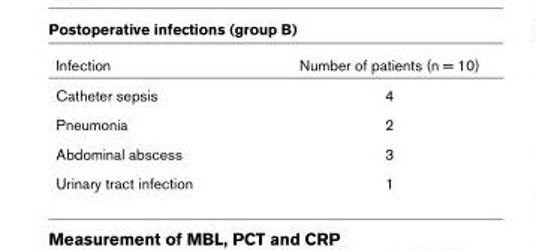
<table><thead><tr><td>Infection</td><td>Number of patients (n = 10)</td></tr></thead><tbody><tr><td>Catheter sepsis</td><td>4</td></tr><tr><td>Pneumonia</td><td>2</td></tr><tr><td>Abdominal abscess</td><td>3</td></tr><tr><td>Urinary tract infection</td><td>1</td></tr></tbody></table>